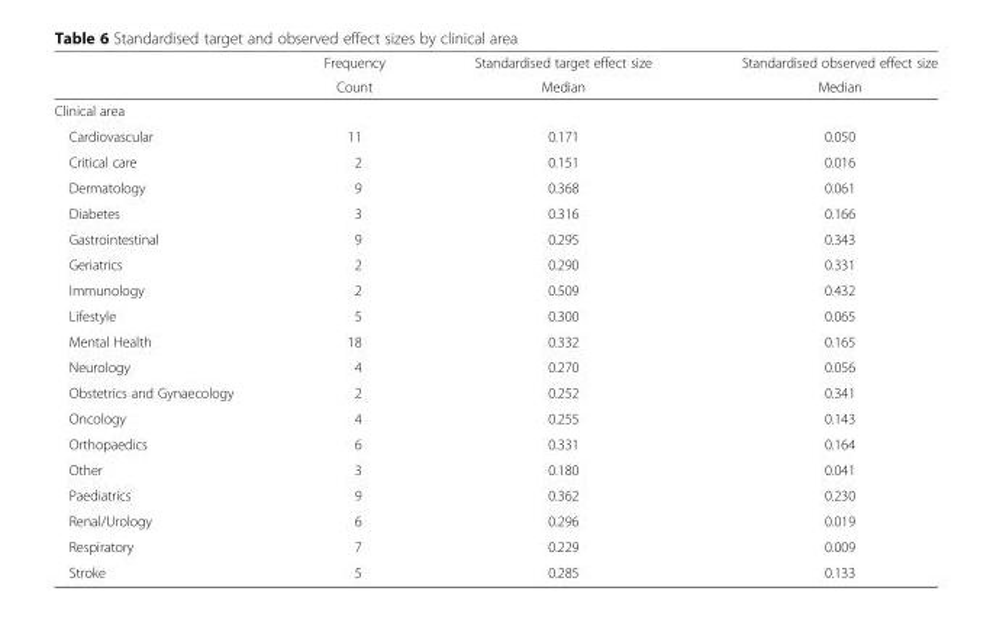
<table><thead><tr><td rowspan="2"></td><td rowspan="2">Frequency Count</td><td rowspan="2">Standardised target effect size Median</td><td rowspan="2">Standardised observed effect size Median</td></tr><tr></tr></thead><tbody><tr><td colspan="4">Clinical area</td></tr><tr><td>Cardiovascular</td><td>11</td><td>0.171</td><td>0.050</td></tr><tr><td>Critical care</td><td>2</td><td>0.151</td><td>0.016</td></tr><tr><td>Dermatology</td><td>9</td><td>0.368</td><td>0.061</td></tr><tr><td>Diabetes</td><td>3</td><td>0.316</td><td>0.166</td></tr><tr><td>Gastrointestinal</td><td>9</td><td>0.295</td><td>0.343</td></tr><tr><td>Geriatrics</td><td>2</td><td>0.290</td><td>0.331</td></tr><tr><td>Immunology</td><td>2</td><td>0.509</td><td>0.432</td></tr><tr><td>Lifestyle</td><td>5</td><td>0.300</td><td>0.065</td></tr><tr><td>Mental Health</td><td>18</td><td>0.332</td><td>0.165</td></tr><tr><td>Neurology</td><td>4</td><td>0.270</td><td>0.056</td></tr><tr><td>Obstetrics and Gynaecology</td><td>2</td><td>0.252</td><td>0.341</td></tr><tr><td>Oncology</td><td>4</td><td>0.255</td><td>0.143</td></tr><tr><td>Orthopaedics</td><td>6</td><td>0.331</td><td>0.164</td></tr><tr><td>Other</td><td>3</td><td>0.180</td><td>0.041</td></tr><tr><td>Paediatrics</td><td>9</td><td>0.362</td><td>0.230</td></tr><tr><td>Renal/Urology</td><td>6</td><td>0.296</td><td>0.019</td></tr><tr><td>Respiratory</td><td>7</td><td>0.229</td><td>0.009</td></tr><tr><td>Stroke</td><td>5</td><td>0.285</td><td>0.133</td></tr></tbody></table>